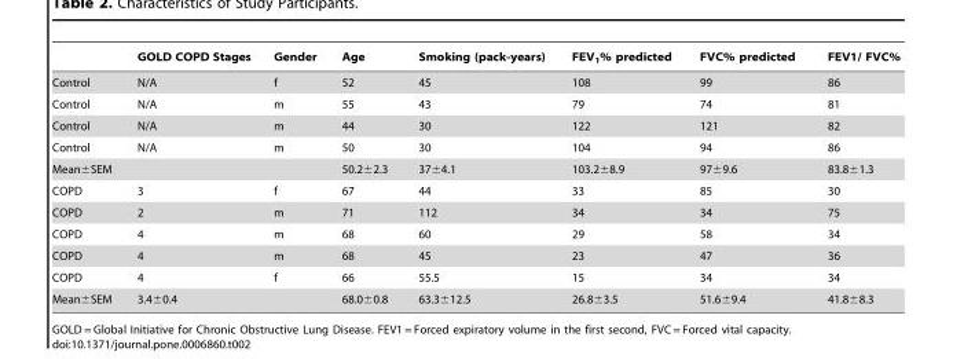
<table><thead><tr><td></td><td>GOLD COPD Stages</td><td>Gender</td><td>Age</td><td>Smoking (pack-years)</td><td>FEV<sub>1</sub>% predicted</td><td>FVC% predicted</td><td>FEV1/ FVC%</td></tr></thead><tbody><tr><td>Control</td><td>N/A</td><td>f</td><td>52</td><td>45</td><td>108</td><td>99</td><td>86</td></tr><tr><td>Control</td><td>N/A</td><td>m</td><td>55</td><td>43</td><td>79</td><td>74</td><td>81</td></tr><tr><td>Control</td><td>N/A</td><td>m</td><td>44</td><td>30</td><td>122</td><td>121</td><td>82</td></tr><tr><td>Control</td><td>N/A</td><td>m</td><td>50</td><td>30</td><td>104</td><td>94</td><td>86</td></tr><tr><td>Mean±SEM</td><td></td><td></td><td>50.2±2.3</td><td>37±4.1</td><td>103.2±8.9</td><td>97±9.6</td><td>83.8±1.3</td></tr><tr><td>COPD</td><td>3</td><td>f</td><td>67</td><td>44</td><td>33</td><td>85</td><td>30</td></tr><tr><td>COPD</td><td>2</td><td>m</td><td>71</td><td>112</td><td>34</td><td>34</td><td>75</td></tr><tr><td>COPD</td><td>4</td><td>m</td><td>68</td><td>60</td><td>29</td><td>58</td><td>34</td></tr><tr><td>COPD</td><td>4</td><td>m</td><td>68</td><td>45</td><td>23</td><td>47</td><td>36</td></tr><tr><td>COPD</td><td>4</td><td>f</td><td>66</td><td>55.5</td><td>15</td><td>34</td><td>34</td></tr><tr><td>Mean±SEM</td><td>3.4±0.4</td><td></td><td>68.0±0.8</td><td>63.3±12.5</td><td>26.8±3.5</td><td>51.6±9.4</td><td>41.8±8.3</td></tr></tbody></table>